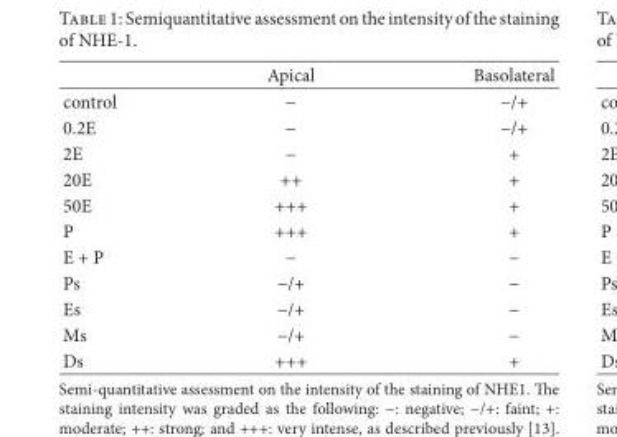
<table><thead><tr><td></td><td>Apical</td><td>Basolateral</td></tr></thead><tbody><tr><td>control</td><td>−</td><td>−/+</td></tr><tr><td>0.2E</td><td>−</td><td>−/+</td></tr><tr><td>2E</td><td>−</td><td>+</td></tr><tr><td>20E</td><td>++</td><td>+</td></tr><tr><td>50E</td><td>+++</td><td>+</td></tr><tr><td>P</td><td>+++</td><td>+</td></tr><tr><td>E + P</td><td>−</td><td>−</td></tr><tr><td>Ps</td><td>−/+</td><td>−</td></tr><tr><td>Es</td><td>−/+</td><td>−</td></tr><tr><td>Ms</td><td>−/+</td><td>−</td></tr><tr><td>Ds</td><td>+++</td><td>+</td></tr></tbody></table>